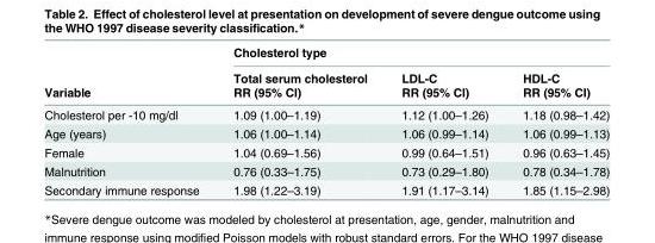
<table><thead><tr><td rowspan="3">Variable</td><td colspan="3">Cholesterol type</td></tr><tr><td rowspan="2">Total serum cholesterol RR (95% CI)</td><td rowspan="2">LDL-C RR (95% CI)</td><td rowspan="2">HDL-C RR (95% CI)</td></tr><tr></tr></thead><tbody><tr><td>Cholesterol per -10 mg/dl</td><td>1.09 (1.00–1.19)</td><td>1.12 (1.00–1.26)</td><td>1.18 (0.98–1.42)</td></tr><tr><td>Age (years)</td><td>1.06 (1.00–1.14)</td><td>1.06 (0.99–1.14)</td><td>1.06 (0.99–1.13)</td></tr><tr><td>Female</td><td>1.04 (0.69–1.56)</td><td>0.99 (0.64–1.51)</td><td>0.96 (0.63–1.45)</td></tr><tr><td>Malnutrition</td><td>0.76 (0.33–1.75)</td><td>0.73 (0.29–1.80)</td><td>0.78 (0.34–1.78)</td></tr><tr><td>Secondary immune response</td><td>1.98 (1.22–3.19)</td><td>1.91 (1.17–3.14)</td><td>1.85 (1.15–2.98)</td></tr></tbody></table>